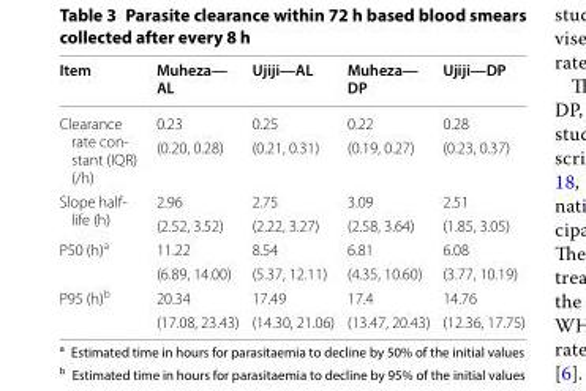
<table><thead><tr><td>Item</td><td>Muheza— AL</td><td>Ujiji—AL</td><td>Muheza— DP</td><td>Ujiji—DP</td></tr></thead><tbody><tr><td rowspan="2">Clearance rate con- stant (IQR) (/h)</td><td>0.23</td><td>0.25</td><td>0.22</td><td>0.28</td></tr><tr><td>(0.20, 0.28)</td><td>(0.21, 0.31)</td><td>(0.19, 0.27)</td><td>(0.23, 0.37)</td></tr><tr><td rowspan="2">Slope half- life (h)</td><td>2.96</td><td>2.75</td><td>3.09</td><td>2.51</td></tr><tr><td>(2.52, 3.52)</td><td>(2.22, 3.27)</td><td>(2.58, 3.64)</td><td>(1.85, 3.05)</td></tr><tr><td rowspan="2">P50 (h)<sup>a</sup></td><td>11.22</td><td>8.54</td><td>6.81</td><td>6.08</td></tr><tr><td>(6.89, 14.00)</td><td>(5.37, 12.11)</td><td>(4.35, 10.60)</td><td>(3.77, 10.19)</td></tr><tr><td rowspan="2">P95 (h)<sup>b</sup></td><td>20.34</td><td>17.49</td><td>17.4</td><td>14.76</td></tr><tr><td>(17.08, 23.43)</td><td>(14.30, 21.06)</td><td>(13.47, 20.43)</td><td>(12.36, 17.75)</td></tr></tbody></table>